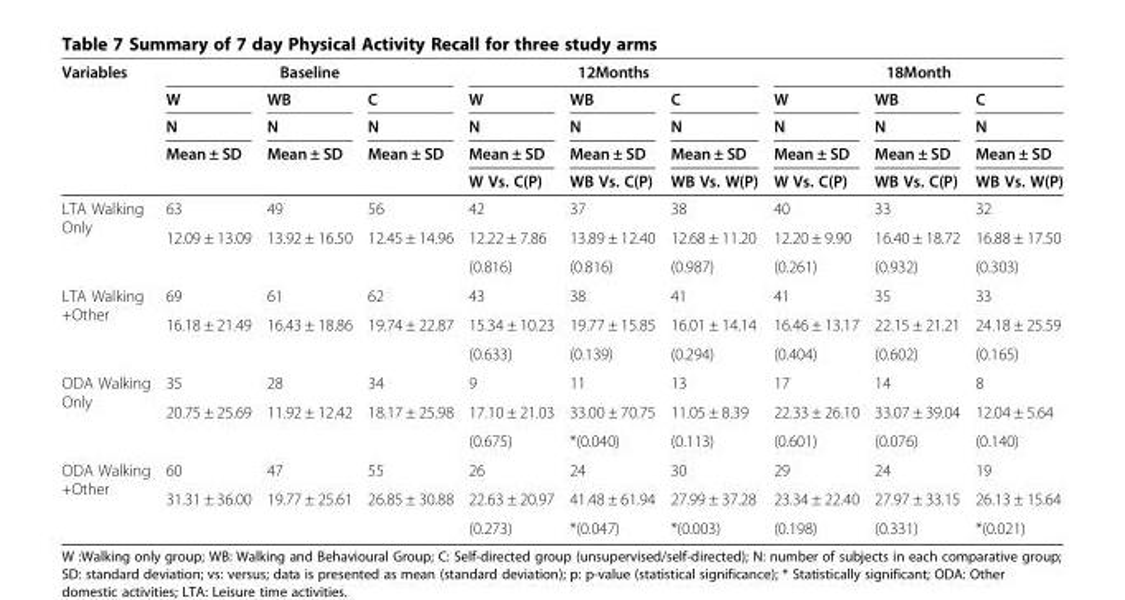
<table><thead><tr><td rowspan="5">Variables</td><td colspan="3">Baseline</td><td colspan="3">12Months</td><td colspan="3">18Month</td></tr><tr><td rowspan="4">W N Mean ± SD</td><td rowspan="4">WB N Mean ± SD</td><td rowspan="4">C N Mean ± SD</td><td rowspan="4">W N Mean ± SD W Vs. C(P)</td><td rowspan="4">WB N Mean ± SD WB Vs. C(P)</td><td rowspan="4">C N Mean ± SD WB Vs. W(P)</td><td rowspan="4">W N Mean ± SD W Vs. C(P)</td><td rowspan="4">WB N Mean ± SD WB Vs. C(P)</td><td rowspan="4">C N Mean ± SD WB Vs. W(P)</td></tr><tr></tr><tr></tr><tr></tr></thead><tbody><tr><td rowspan="3">LTA Walking Only</td><td>63</td><td>49</td><td>56</td><td>42</td><td>37</td><td>38</td><td>40</td><td>33</td><td>32</td></tr><tr><td>12.09 ± 13.09</td><td>13.92 ± 16.50</td><td>12.45 ± 14.96</td><td>12.22 ± 7.86</td><td>13.89 ± 12.40</td><td>12.68 ± 11.20</td><td>12.20 ± 9.90</td><td>16.40 ± 18.72</td><td>16.88 ± 17.50</td></tr><tr><td></td><td></td><td></td><td>(0.816)</td><td>(0.816)</td><td>(0.987)</td><td>(0.261)</td><td>(0.932)</td><td>(0.303)</td></tr><tr><td rowspan="3">LTA Walking +Other</td><td>69</td><td>61</td><td>62</td><td>43</td><td>38</td><td>41</td><td>41</td><td>35</td><td>33</td></tr><tr><td>16.18 ± 21.49</td><td>16.43 ± 18.86</td><td>19.74 ± 22.87</td><td>15.34 ± 10.23</td><td>19.77 ± 15.85</td><td>16.01 ± 14.14</td><td>16.46 ± 13.17</td><td>22.15 ± 21.21</td><td>24.18 ± 25.59</td></tr><tr><td></td><td></td><td></td><td>(0.633)</td><td>(0.139)</td><td>(0.294)</td><td>(0.404)</td><td>(0.602)</td><td>(0.165)</td></tr><tr><td rowspan="3">ODA Walking Only</td><td>35</td><td>28</td><td>34</td><td>9</td><td>11</td><td>13</td><td>17</td><td>14</td><td>8</td></tr><tr><td>20.75 ± 25.69</td><td>11.92 ± 12.42</td><td>18.17 ± 25.98</td><td>17.10 ± 21.03</td><td>33.00 ± 70.75</td><td>11.05 ± 8.39</td><td>22.33 ± 26.10</td><td>33.07 ± 39.04</td><td>12.04 ± 5.64</td></tr><tr><td></td><td></td><td></td><td>(0.675)</td><td>*(0.040)</td><td>(0.113)</td><td>(0.601)</td><td>(0.076)</td><td>(0.140)</td></tr><tr><td rowspan="3">ODA Walking +Other</td><td>60</td><td>47</td><td>55</td><td>26</td><td>24</td><td>30</td><td>29</td><td>24</td><td>19</td></tr><tr><td>31.31 ± 36.00</td><td>19.77 ± 25.61</td><td>26.85 ± 30.88</td><td>22.63 ± 20.97</td><td>41.48 ± 61.94</td><td>27.99 ± 37.28</td><td>23.34 ± 22.40</td><td>27.97 ± 33.15</td><td>26.13 ± 15.64</td></tr><tr><td></td><td></td><td></td><td>(0.273)</td><td>*(0.047)</td><td>*(0.003)</td><td>(0.198)</td><td>(0.331)</td><td>*(0.021)</td></tr></tbody></table>